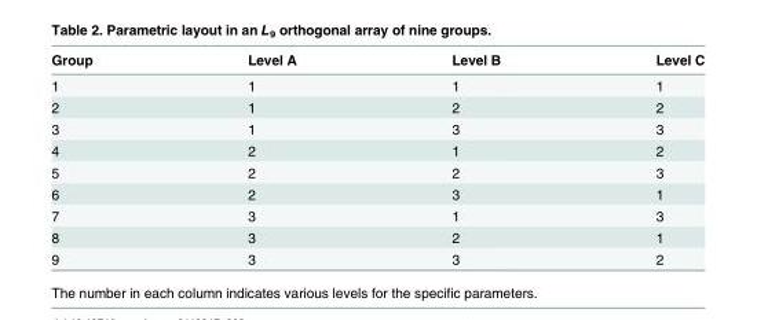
<table><thead><tr><td>Group</td><td>Level A</td><td>Level B</td><td>Level C</td></tr></thead><tbody><tr><td>1</td><td>1</td><td>1</td><td>1</td></tr><tr><td>2</td><td>1</td><td>2</td><td>2</td></tr><tr><td>3</td><td>1</td><td>3</td><td>3</td></tr><tr><td>4</td><td>2</td><td>1</td><td>2</td></tr><tr><td>5</td><td>2</td><td>2</td><td>3</td></tr><tr><td>6</td><td>2</td><td>3</td><td>1</td></tr><tr><td>7</td><td>3</td><td>1</td><td>3</td></tr><tr><td>8</td><td>3</td><td>2</td><td>1</td></tr><tr><td>9</td><td>3</td><td>3</td><td>2</td></tr></tbody></table>